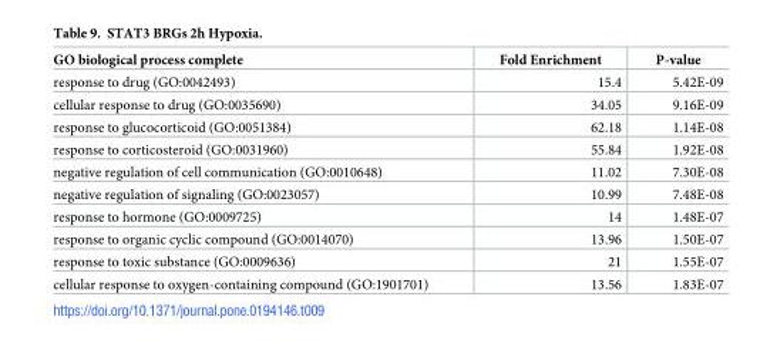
<table><thead><tr><td>GO biological process complete</td><td>Fold Enrichment</td><td>P-value</td></tr></thead><tbody><tr><td>response to drug (GO:0042493)</td><td>15.4</td><td>5.42E-09</td></tr><tr><td>cellular response to drug (GO:0035690)</td><td>34.05</td><td>9.16E-09</td></tr><tr><td>response to glucocorticoid (GO:0051384)</td><td>62.18</td><td>1.14E-08</td></tr><tr><td>response to corticosteroid (GO:0031960)</td><td>55.84</td><td>1.92E-08</td></tr><tr><td>negative regulation of cell communication (GO:0010648)</td><td>11.02</td><td>7.30E-08</td></tr><tr><td>negative regulation of signaling (GO:0023057)</td><td>10.99</td><td>7.48E-08</td></tr><tr><td>response to hormone (GO:0009725)</td><td>14</td><td>1.48E-07</td></tr><tr><td>response to organic cyclic compound (GO:0014070)</td><td>13.96</td><td>1.50E-07</td></tr><tr><td>response to toxic substance (GO:0009636)</td><td>21</td><td>1.55E-07</td></tr><tr><td>cellular response to oxygen-containing compound (GO:1901701)</td><td>13.56</td><td>1.83E-07</td></tr></tbody></table>